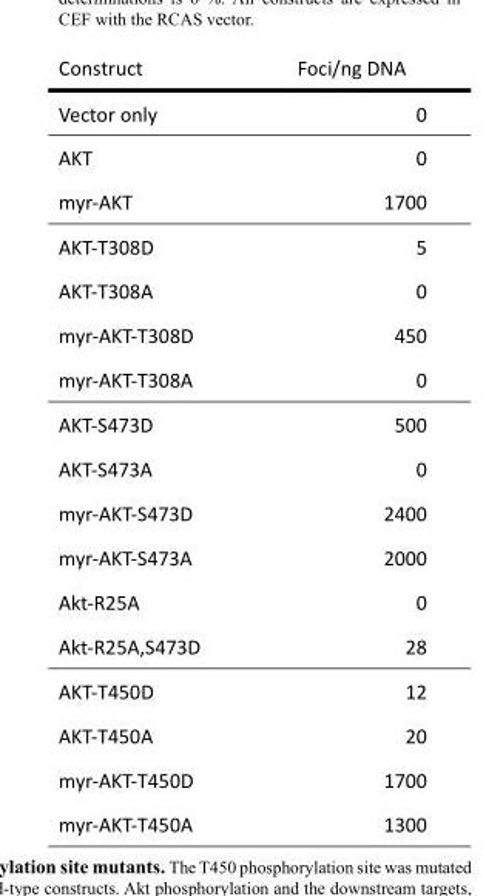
<table><thead><tr><td>Construct</td><td>Foci/ng DNA</td></tr></thead><tbody><tr><td>Vector only</td><td>0</td></tr><tr><td>AKT</td><td>0</td></tr><tr><td>myr-AKT</td><td>1700</td></tr><tr><td>AKT-T308D</td><td>5</td></tr><tr><td>AKT-T308A</td><td>0</td></tr><tr><td>myr-AKT-T308D</td><td>450</td></tr><tr><td>myr-AKT-T308A</td><td>0</td></tr><tr><td>AKT-S473D</td><td>500</td></tr><tr><td>AKT-S473A</td><td>0</td></tr><tr><td>myr-AKT-S473D</td><td>2400</td></tr><tr><td>myr-AKT-S473A</td><td>2000</td></tr><tr><td>Akt-R25A</td><td>0</td></tr><tr><td>Akt-R25A,S473D</td><td>28</td></tr><tr><td>AKT-T450D</td><td>12</td></tr><tr><td>AKT-T450A</td><td>20</td></tr><tr><td>myr-AKT-T450D</td><td>1700</td></tr><tr><td>myr-AKT-T450A</td><td>1300</td></tr></tbody></table>